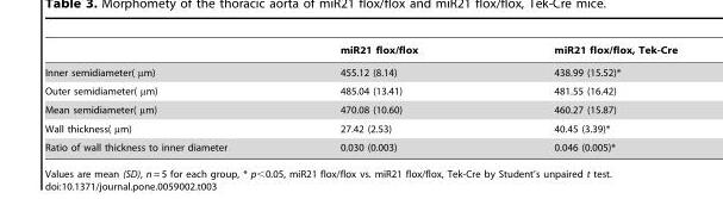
<table><thead><tr><td></td><td>miR21 flox/flox</td><td>miR21 flox/flox, Tek-Cre</td></tr></thead><tbody><tr><td>Inner semidiameter( µm)</td><td>455.12 (8.14)</td><td>438.99 (15.52)*</td></tr><tr><td>Outer semidiameter( µm)</td><td>485.04 (13.41)</td><td>481.55 (16.42)</td></tr><tr><td>Mean semidiameter( µm)</td><td>470.08 (10.60)</td><td>460.27 (15.87)</td></tr><tr><td>Wall thickness( µm)</td><td>27.42 (2.53)</td><td>40.45 (3.39)*</td></tr><tr><td>Ratio of wall thickness to inner diameter</td><td>0.030 (0.003)</td><td>0.046 (0.005)*</td></tr></tbody></table>